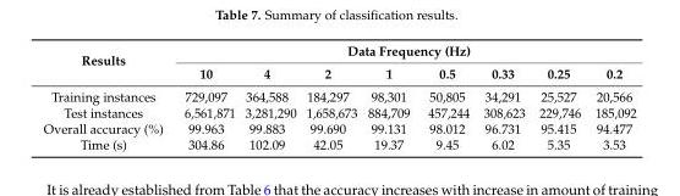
<table><thead><tr><td rowspan="2">Results</td><td colspan="8">Data Frequency (Hz)</td></tr><tr><td>10</td><td>4</td><td>2</td><td>1</td><td>0.5</td><td>0.33</td><td>0.25</td><td>0.2</td></tr></thead><tbody><tr><td>Training instances</td><td>729,097</td><td>364,588</td><td>184,297</td><td>98,301</td><td>50,805</td><td>34,291</td><td>25,527</td><td>20,566</td></tr><tr><td>Test instances</td><td>6,561,871</td><td>3,281,290</td><td>1,658,673</td><td>884,709</td><td>457,244</td><td>308,623</td><td>229,746</td><td>185,092</td></tr><tr><td>Overall accuracy (%)</td><td>99.963</td><td>99.883</td><td>99.690</td><td>99.131</td><td>98.012</td><td>96.731</td><td>95.415</td><td>94.477</td></tr><tr><td>Time (s)</td><td>304.86</td><td>102.09</td><td>42.05</td><td>19.37</td><td>9.45</td><td>6.02</td><td>5.35</td><td>3.53</td></tr></tbody></table>